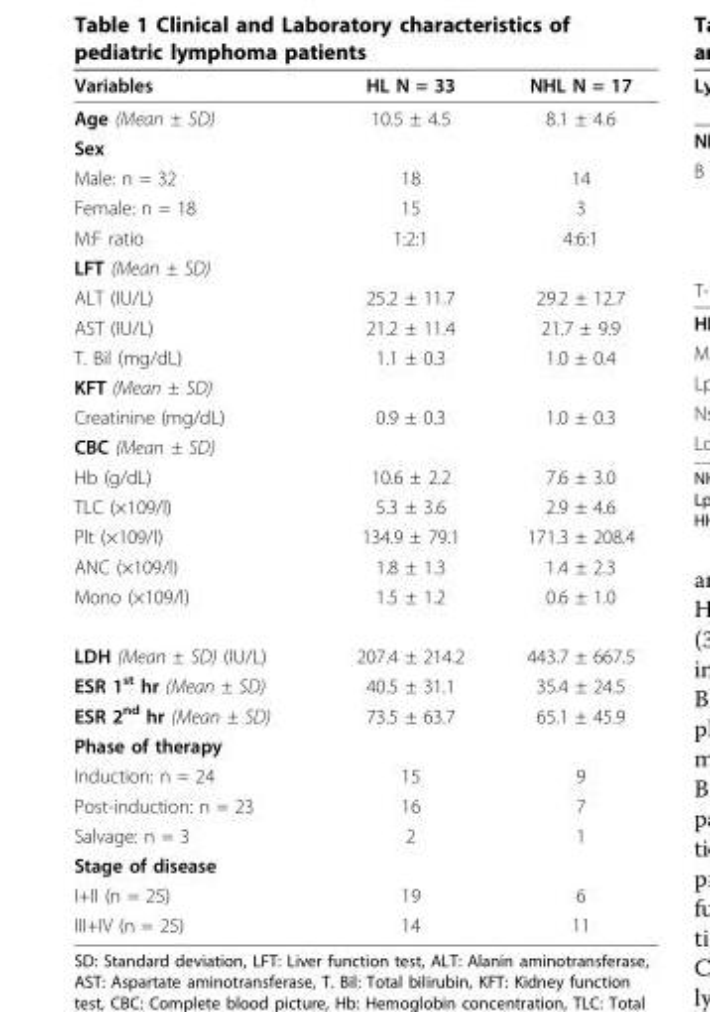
<table><thead><tr><td>Variables</td><td>HL N = 33</td><td>NHL N = 17</td></tr></thead><tbody><tr><td>Age (Mean ± SD)</td><td>10.5 ± 4.5</td><td>8.1 ± 4.6</td></tr><tr><td colspan="3">Sex</td></tr><tr><td>Male: n = 32</td><td>18</td><td>14</td></tr><tr><td>Female: n = 18</td><td>15</td><td>3</td></tr><tr><td>M:F ratio</td><td>1:2:1</td><td>4:6:1</td></tr><tr><td colspan="3">LFT (Mean ± SD)</td></tr><tr><td>ALT (IU/L)</td><td>25.2 ± 11.7</td><td>29.2 ± 12.7</td></tr><tr><td>AST (IU/L)</td><td>21.2 ± 11.4</td><td>21.7 ± 9.9</td></tr><tr><td>T. Bil (mg/dL)</td><td>1.1 ± 0.3</td><td>1.0 ± 0.4</td></tr><tr><td colspan="3">KFT (Mean ± SD)</td></tr><tr><td>Creatinine (mg/dL)</td><td>0.9 ± 0.3</td><td>1.0 ± 0.3</td></tr><tr><td colspan="3">CBC (Mean ± SD)</td></tr><tr><td>Hb (g/dL)</td><td>10.6 ± 2.2</td><td>7.6 ± 3.0</td></tr><tr><td>TLC (×109/l)</td><td>5.3 ± 3.6</td><td>2.9 ± 4.6</td></tr><tr><td>Plt (×109/l)</td><td>134.9 ± 79.1</td><td>171.3 ± 208.4</td></tr><tr><td>ANC (×109/l)</td><td>1.8 ± 1.3</td><td>1.4 ± 2.3</td></tr><tr><td>Mono (×109/l)</td><td>1.5 ± 1.2</td><td>0.6 ± 1.0</td></tr><tr><td>LDH (Mean ± SD) (IU/L)</td><td>207.4 ± 214.2</td><td>443.7 ± 667.5</td></tr><tr><td>ESR 1<sup>st</sup> hr (Mean ± SD)</td><td>40.5 ± 31.1</td><td>35.4 ± 24.5</td></tr><tr><td>ESR 2<sup>nd</sup> hr (Mean ± SD)</td><td>73.5 ± 63.7</td><td>65.1 ± 45.9</td></tr><tr><td colspan="3">Phase of therapy</td></tr><tr><td>Induction: n = 24</td><td>15</td><td>9</td></tr><tr><td>Post-induction: n = 23</td><td>16</td><td>7</td></tr><tr><td>Salvage: n = 3</td><td>2</td><td>1</td></tr><tr><td colspan="3">Stage of disease</td></tr><tr><td>I+II (n = 25)</td><td>19</td><td>6</td></tr><tr><td>III+IV (n = 25)</td><td>14</td><td>11</td></tr></tbody></table>